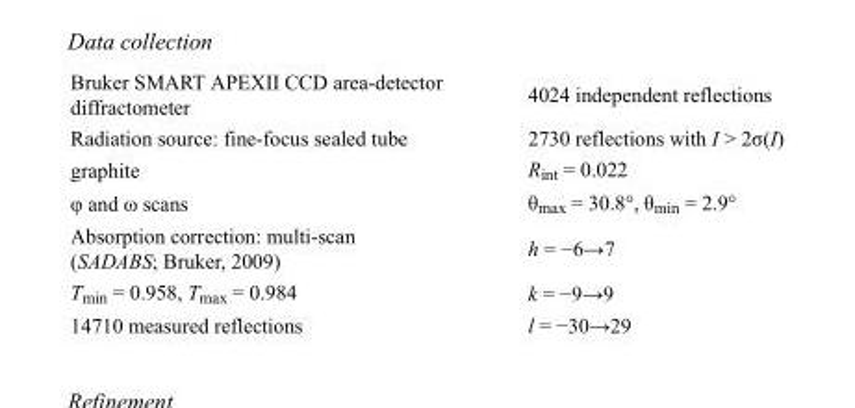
<table><tbody><tr><td>Bruker SMART APEXII CCD area-detector diffractometer</td><td>4024 independent reflections</td></tr><tr><td>Radiation source: fine-focus sealed tube</td><td>2730 reflections with I &gt; 2σ(I)</td></tr><tr><td>graphite</td><td>R<sub>int</sub> = 0.022</td></tr><tr><td>φ and ω scans</td><td>θ<sub>max</sub> = 30.8°, θ<sub>min</sub> = 2.9°</td></tr><tr><td>Absorption correction: multi-scan (SADABS; Bruker, 2009)</td><td>h = −6→7</td></tr><tr><td>T<sub>min</sub> = 0.958, T<sub>max</sub> = 0.984</td><td>k = −9→9</td></tr><tr><td>14710 measured reflections</td><td>l = −30→29</td></tr></tbody></table>